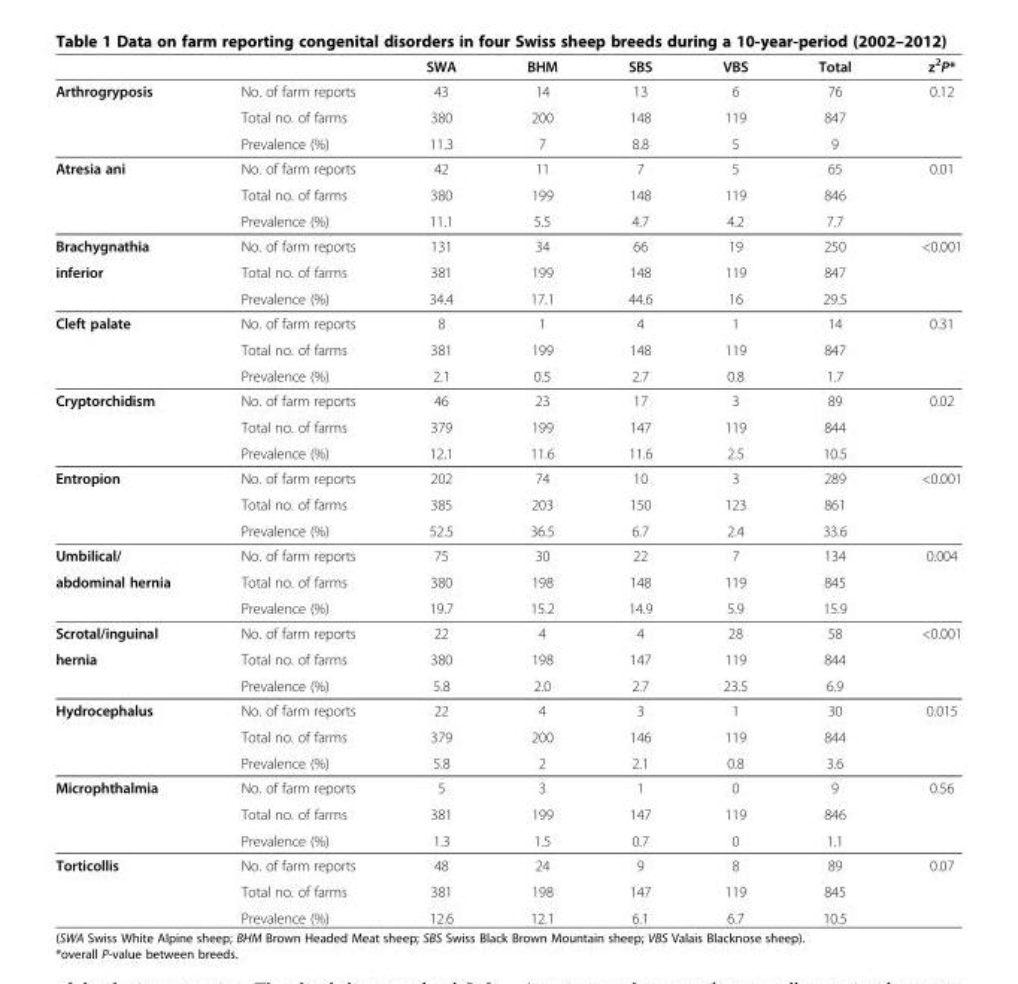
<table><thead><tr><td></td><td></td><td>SWA</td><td>BHM</td><td>SBS</td><td>VBS</td><td>Total</td><td>z<sup>2</sup>P*</td></tr></thead><tbody><tr><td rowspan="3">Arthrogryposis</td><td>No. of farm reports</td><td>43</td><td>14</td><td>13</td><td>6</td><td>76</td><td>0.12</td></tr><tr><td>Total no. of farms</td><td>380</td><td>200</td><td>148</td><td>119</td><td>847</td><td></td></tr><tr><td>Prevalence (%)</td><td>11.3</td><td>7</td><td>8.8</td><td>5</td><td>9</td><td></td></tr><tr><td rowspan="3">Atresia ani</td><td>No. of farm reports</td><td>42</td><td>11</td><td>7</td><td>5</td><td>65</td><td>0.01</td></tr><tr><td>Total no. of farms</td><td>380</td><td>199</td><td>148</td><td>119</td><td>846</td><td></td></tr><tr><td>Prevalence (%)</td><td>11.1</td><td>5.5</td><td>4.7</td><td>4.2</td><td>7.7</td><td></td></tr><tr><td>Brachygnathia</td><td>No. of farm reports</td><td>131</td><td>34</td><td>66</td><td>19</td><td>250</td><td>&lt;0.001</td></tr><tr><td rowspan="2">inferior</td><td>Total no. of farms</td><td>381</td><td>199</td><td>148</td><td>119</td><td>847</td><td></td></tr><tr><td>Prevalence (%)</td><td>34.4</td><td>17.1</td><td>44.6</td><td>16</td><td>29.5</td><td></td></tr><tr><td rowspan="3">Cleft palate</td><td>No. of farm reports</td><td>8</td><td>1</td><td>4</td><td>1</td><td>14</td><td>0.31</td></tr><tr><td>Total no. of farms</td><td>381</td><td>199</td><td>148</td><td>119</td><td>847</td><td></td></tr><tr><td>Prevalence (%)</td><td>2.1</td><td>0.5</td><td>2.7</td><td>0.8</td><td>1.7</td><td></td></tr><tr><td rowspan="3">Cryptorchidism</td><td>No. of farm reports</td><td>46</td><td>23</td><td>17</td><td>3</td><td>89</td><td>0.02</td></tr><tr><td>Total no. of farms</td><td>379</td><td>199</td><td>147</td><td>119</td><td>844</td><td></td></tr><tr><td>Prevalence (%)</td><td>12.1</td><td>11.6</td><td>11.6</td><td>2.5</td><td>10.5</td><td></td></tr><tr><td rowspan="3">Entropion</td><td>No. of farm reports</td><td>202</td><td>74</td><td>10</td><td>3</td><td>289</td><td>&lt;0.001</td></tr><tr><td>Total no. of farms</td><td>385</td><td>203</td><td>150</td><td>123</td><td>861</td><td></td></tr><tr><td>Prevalence (%)</td><td>52.5</td><td>36.5</td><td>6.7</td><td>2.4</td><td>33.6</td><td></td></tr><tr><td>Umbilical/</td><td>No. of farm reports</td><td>75</td><td>30</td><td>22</td><td>7</td><td>134</td><td>0.004</td></tr><tr><td rowspan="2">abdominal hernia</td><td>Total no. of farms</td><td>380</td><td>198</td><td>148</td><td>119</td><td>845</td><td></td></tr><tr><td>Prevalence (%)</td><td>19.7</td><td>15.2</td><td>14.9</td><td>5.9</td><td>15.9</td><td></td></tr><tr><td>Scrotal/inguinal</td><td>No. of farm reports</td><td>22</td><td>4</td><td>4</td><td>28</td><td>58</td><td>&lt;0.001</td></tr><tr><td rowspan="2">hernia</td><td>Total no. of farms</td><td>380</td><td>198</td><td>147</td><td>119</td><td>844</td><td></td></tr><tr><td>Prevalence (%)</td><td>5.8</td><td>2.0</td><td>2.7</td><td>23.5</td><td>6.9</td><td></td></tr><tr><td rowspan="3">Hydrocephalus</td><td>No. of farm reports</td><td>22</td><td>4</td><td>3</td><td>1</td><td>30</td><td>0.015</td></tr><tr><td>Total no. of farms</td><td>379</td><td>200</td><td>146</td><td>119</td><td>844</td><td></td></tr><tr><td>Prevalence (%)</td><td>5.8</td><td>2</td><td>2.1</td><td>0.8</td><td>3.6</td><td></td></tr><tr><td rowspan="3">Microphthalmia</td><td>No. of farm reports</td><td>5</td><td>3</td><td>1</td><td>0</td><td>9</td><td>0.56</td></tr><tr><td>Total no. of farms</td><td>381</td><td>199</td><td>147</td><td>119</td><td>846</td><td></td></tr><tr><td>Prevalence (%)</td><td>1.3</td><td>1.5</td><td>0.7</td><td>0</td><td>1.1</td><td></td></tr><tr><td rowspan="3">Torticollis</td><td>No. of farm reports</td><td>48</td><td>24</td><td>9</td><td>8</td><td>89</td><td>0.07</td></tr><tr><td>Total no. of farms</td><td>381</td><td>198</td><td>147</td><td>119</td><td>845</td><td></td></tr><tr><td>Prevalence (%)</td><td>12.6</td><td>12.1</td><td>6.1</td><td>6.7</td><td>10.5</td><td></td></tr></tbody></table>